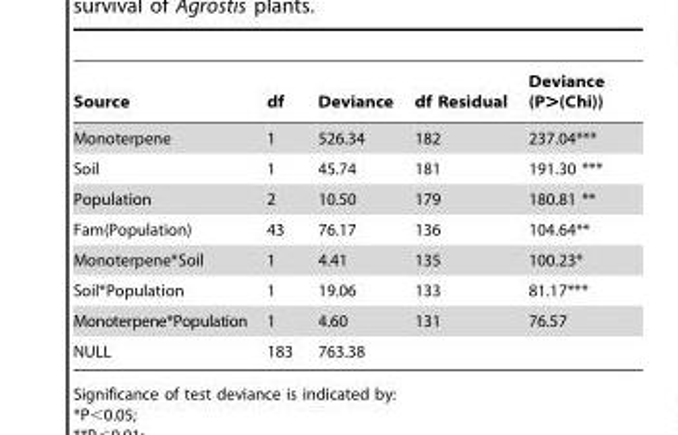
<table><thead><tr><td>Source</td><td>df</td><td>Deviance</td><td>df Residual</td><td>Deviance (P&gt;(Chi))</td></tr></thead><tbody><tr><td>Monoterpene</td><td>1</td><td>526.34</td><td>182</td><td>237.04***</td></tr><tr><td>Soil</td><td>1</td><td>45.74</td><td>181</td><td>191.30 ***</td></tr><tr><td>Population</td><td>2</td><td>10.50</td><td>179</td><td>180.81 **</td></tr><tr><td>Fam(Population)</td><td>43</td><td>76.17</td><td>136</td><td>104.64**</td></tr><tr><td>Monoterpene*Soil</td><td>1</td><td>4.41</td><td>135</td><td>100.23*</td></tr><tr><td>Soil*Population</td><td>1</td><td>19.06</td><td>133</td><td>81.17***</td></tr><tr><td>Monoterpene*Population</td><td>1</td><td>4.60</td><td>131</td><td>76.57</td></tr><tr><td>NULL</td><td>183</td><td>763.38</td><td></td><td></td></tr></tbody></table>